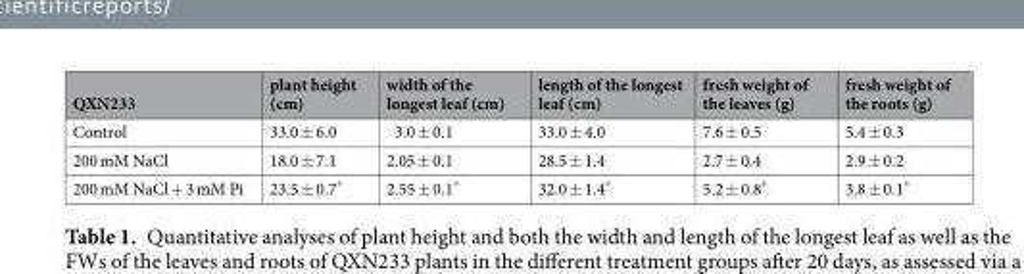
<table><thead><tr><td>QXN233</td><td>plant height (cm)</td><td>width of the longest leaf (cm)</td><td>length of the longest leaf (cm)</td><td>fresh weight of the leaves (g)</td><td>fresh weight of the roots (g)</td></tr></thead><tbody><tr><td>Control</td><td>33.0 ± 6.0</td><td>3.0 ± 0.1</td><td>33.0 ± 4.0</td><td>7.6 ± 0.5</td><td>5.4 ± 0.3</td></tr><tr><td>200 mM NaCl</td><td>18.0 ± 7.1</td><td>2.05 ± 0.1</td><td>28.5 ± 1.4</td><td>2.7 ± 0.4</td><td>2.9 ± 0.2</td></tr><tr><td>200 mM NaCl + 3 mM Pi</td><td>23.5 ± 0.7*</td><td>2.55 ± 0.1*</td><td>32.0 ± 1.4*</td><td>5.2 ± 0.8*</td><td>3.8 ± 0.1*</td></tr></tbody></table>